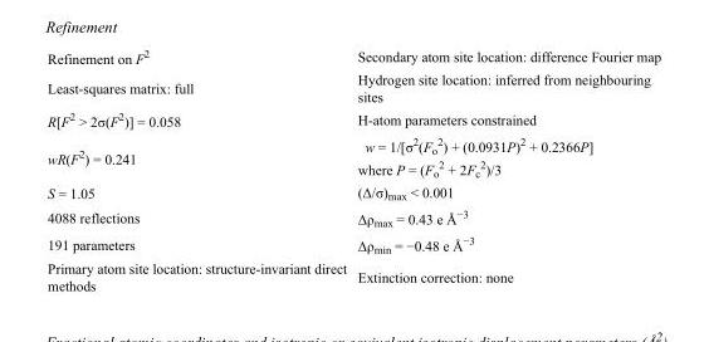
<table><tbody><tr><td>Refinement on F<sup>2</sup></td><td>Secondary atom site location: difference Fourier map</td></tr><tr><td>Least-squares matrix: full</td><td>Hydrogen site location: inferred from neighbouring sites</td></tr><tr><td>R[F<sup>2</sup> &gt; 2σ(F<sup>2</sup>)] = 0.058</td><td>H-atom parameters constrained</td></tr><tr><td>wR(F<sup>2</sup>) = 0.241</td><td>w = 1/[σ<sup>2</sup>(F<sub>o</sub> <sup>2</sup>) + (0.0931P)<sup>2</sup> + 0.2366P] where P = (F<sub>o</sub> <sup>2</sup> + 2F<sub>c</sub> <sup>2</sup>)/3</td></tr><tr><td>S = 1.05</td><td>(Δ/σ)<sub>max</sub> &lt; 0.001</td></tr><tr><td>4088 reflections</td><td>Δρ<sub>max</sub> = 0.43 e Å<sup>−3</sup></td></tr><tr><td>191 parameters</td><td>Δρ<sub>min</sub> = −0.48 e Å<sup>−3</sup></td></tr><tr><td>Primary atom site location: structure-invariant direct methods</td><td>Extinction correction: none</td></tr></tbody></table>